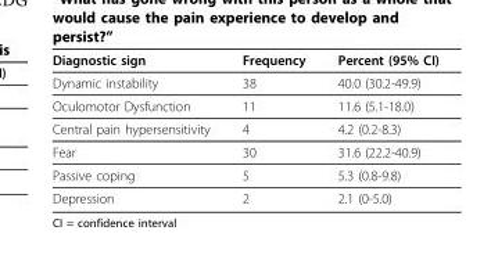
<table><thead><tr><td>Diagnostic sign</td><td>Frequency</td><td>Percent (95% CI)</td></tr></thead><tbody><tr><td>Dynamic instability</td><td>38</td><td>40.0 (30.2-49.9)</td></tr><tr><td>Oculomotor Dysfunction</td><td>11</td><td>11.6 (5.1-18.0)</td></tr><tr><td>Central pain hypersensitivity</td><td>4</td><td>4.2 (0.2-8.3)</td></tr><tr><td>Fear</td><td>30</td><td>31.6 (22.2-40.9)</td></tr><tr><td>Passive coping</td><td>5</td><td>5.3 (0.8-9.8)</td></tr><tr><td>Depression</td><td>2</td><td>2.1 (0-5.0)</td></tr></tbody></table>